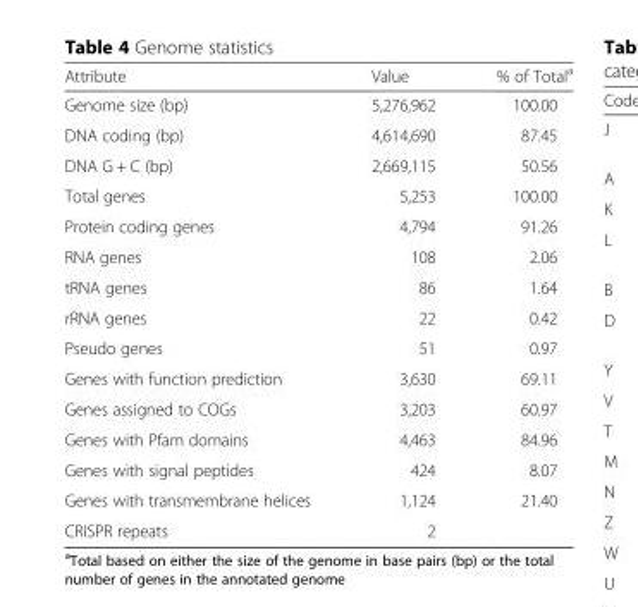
<table><thead><tr><td>Attribute</td><td>Value</td><td>% of Total<sup>a</sup></td></tr></thead><tbody><tr><td>Genome size (bp)</td><td>5,276,962</td><td>100.00</td></tr><tr><td>DNA coding (bp)</td><td>4,614,690</td><td>87.45</td></tr><tr><td>DNA G + C (bp)</td><td>2,669,115</td><td>50.56</td></tr><tr><td>Total genes</td><td>5,253</td><td>100.00</td></tr><tr><td>Protein coding genes</td><td>4,794</td><td>91.26</td></tr><tr><td>RNA genes</td><td>108</td><td>2.06</td></tr><tr><td>tRNA genes</td><td>86</td><td>1.64</td></tr><tr><td>rRNA genes</td><td>22</td><td>0.42</td></tr><tr><td>Pseudo genes</td><td>51</td><td>0.97</td></tr><tr><td>Genes with function prediction</td><td>3,630</td><td>69.11</td></tr><tr><td>Genes assigned to COGs</td><td>3,203</td><td>60.97</td></tr><tr><td>Genes with Pfam domains</td><td>4,463</td><td>84.96</td></tr><tr><td>Genes with signal peptides</td><td>424</td><td>8.07</td></tr><tr><td>Genes with transmembrane helices</td><td>1,124</td><td>21.40</td></tr><tr><td>CRISPR repeats</td><td>2</td><td></td></tr></tbody></table>